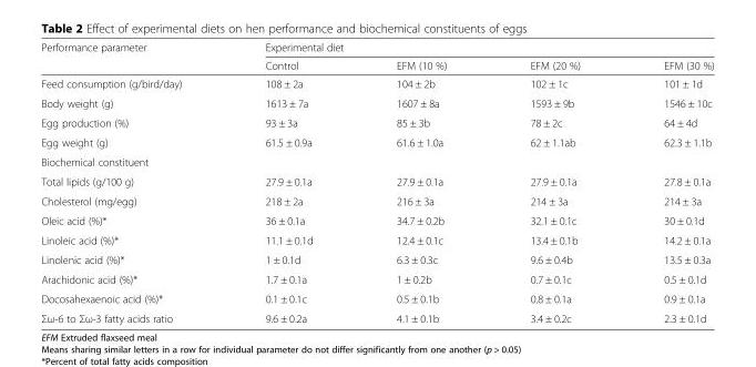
<table><thead><tr><td rowspan="2">Performance parameter</td><td colspan="4">Experimental diet</td></tr><tr><td>Control</td><td>EFM (10 %)</td><td>EFM (20 %)</td><td>EFM (30 %)</td></tr></thead><tbody><tr><td>Feed consumption (g/bird/day)</td><td>108 ± 2a</td><td>104 ± 2b</td><td>102 ± 1c</td><td>101 ± 1d</td></tr><tr><td>Body weight (g)</td><td>1613 ± 7a</td><td>1607 ± 8a</td><td>1593 ± 9b</td><td>1546 ± 10c</td></tr><tr><td>Egg production (%)</td><td>93 ± 3a</td><td>85 ± 3b</td><td>78 ± 2c</td><td>64 ± 4d</td></tr><tr><td>Egg weight (g)</td><td>61.5 ± 0.9a</td><td>61.6 ± 1.0a</td><td>62 ± 1.1ab</td><td>62.3 ± 1.1b</td></tr><tr><td colspan="5">Biochemical constituent</td></tr><tr><td>Total lipids (g/100 g)</td><td>27.9 ± 0.1a</td><td>27.9 ± 0.1a</td><td>27.9 ± 0.1a</td><td>27.8 ± 0.1a</td></tr><tr><td>Cholesterol (mg/egg)</td><td>218 ± 2a</td><td>216 ± 3a</td><td>214 ± 3a</td><td>214 ± 3a</td></tr><tr><td>Oleic acid (%)*</td><td>36 ± 0.1a</td><td>34.7 ± 0.2b</td><td>32.1 ± 0.1c</td><td>30 ± 0.1d</td></tr><tr><td>Linoleic acid (%)*</td><td>11.1 ± 0.1d</td><td>12.4 ± 0.1c</td><td>13.4 ± 0.1b</td><td>14.2 ± 0.1a</td></tr><tr><td>Linolenic acid (%)*</td><td>1 ± 0.1d</td><td>6.3 ± 0.3c</td><td>9.6 ± 0.4b</td><td>13.5 ± 0.3a</td></tr><tr><td>Arachidonic acid (%)*</td><td>1.7 ± 0.1a</td><td>1 ± 0.2b</td><td>0.7 ± 0.1c</td><td>0.5 ± 0.1d</td></tr><tr><td>Docosahexaenoic acid (%)*</td><td>0.1 ± 0.1c</td><td>0.5 ± 0.1b</td><td>0.8 ± 0.1a</td><td>0.9 ± 0.1a</td></tr><tr><td>Σω-6 to Σω-3 fatty acids ratio</td><td>9.6 ± 0.2a</td><td>4.1 ± 0.1b</td><td>3.4 ± 0.2c</td><td>2.3 ± 0.1d</td></tr></tbody></table>